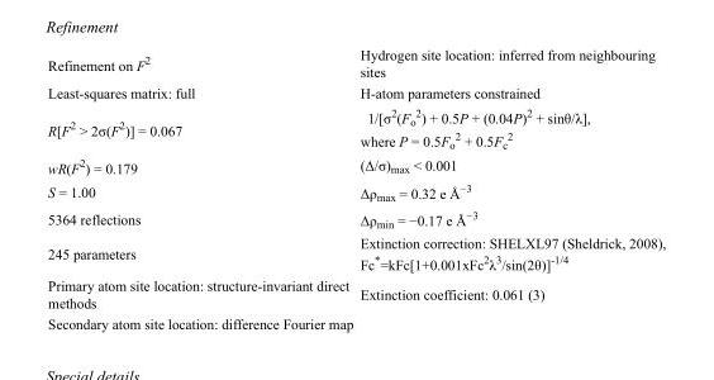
<table><tbody><tr><td>Refinement on F<sup>2</sup></td><td>Hydrogen site location: inferred from neighbouring sites</td></tr><tr><td>Least-squares matrix: full</td><td>H-atom parameters constrained</td></tr><tr><td>R[F<sup>2</sup> &gt; 2σ(F<sup>2</sup>)] = 0.067</td><td>1/[σ<sup>2</sup>(F<sub>o</sub> <sup>2</sup>) + 0.5P + (0.04P)<sup>2</sup> + sinθ/λ], where P = 0.5F<sub>o</sub> <sup>2</sup> + 0.5F<sub>c</sub> <sup>2</sup></td></tr><tr><td>wR(F<sup>2</sup>) = 0.179</td><td>(Δ/σ)<sub>max</sub> &lt; 0.001</td></tr><tr><td>S = 1.00</td><td>Δρ<sub>max</sub> = 0.32 e Å<sup>−3</sup></td></tr><tr><td>5364 reflections</td><td>Δρ<sub>min</sub> = −0.17 e Å<sup>−3</sup></td></tr><tr><td>245 parameters</td><td>Extinction correction: SHELXL97 (Sheldrick, 2008), Fc*=kFc[1+0.001xFc<sup>2</sup>λ<sup>3</sup>/sin(2θ)]<sup>-1/4</sup></td></tr><tr><td>Primary atom site location: structure-invariant direct methods</td><td>Extinction coefficient: 0.061 (3)</td></tr><tr><td>Secondary atom site location: difference Fourier map</td><td></td></tr></tbody></table>